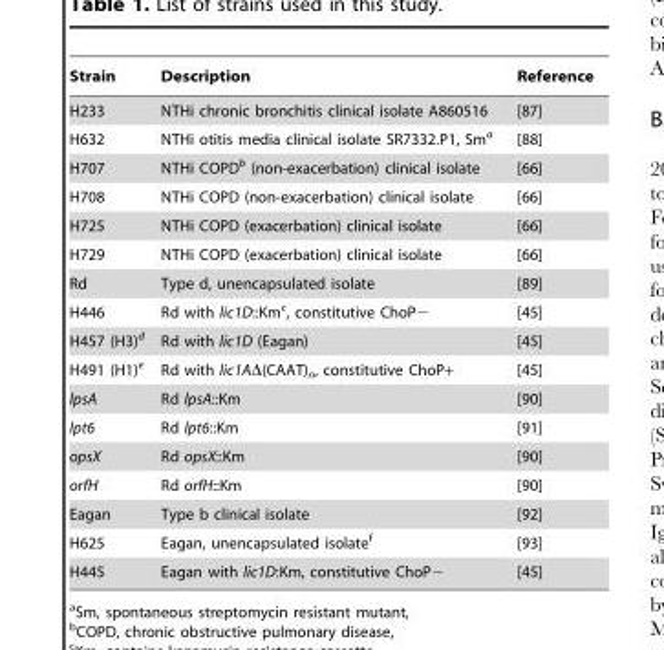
<table><thead><tr><td>Strain</td><td>Description</td><td>Reference</td></tr></thead><tbody><tr><td>H233</td><td>NTHi chronic bronchitis clinical isolate A860516</td><td>[87]</td></tr><tr><td>H632</td><td>NTHi otitis media clinical isolate SR7332.P1, Sm<sup>a</sup></td><td>[88]</td></tr><tr><td>H707</td><td>NTHi COPD<sup>b</sup> (non-exacerbation) clinical isolate</td><td>[66]</td></tr><tr><td>H708</td><td>NTHi COPD (non-exacerbation) clinical isolate</td><td>[66]</td></tr><tr><td>H725</td><td>NTHi COPD (exacerbation) clinical isolate</td><td>[66]</td></tr><tr><td>H729</td><td>NTHi COPD (exacerbation) clinical isolate</td><td>[66]</td></tr><tr><td>Rd</td><td>Type d, unencapsulated isolate</td><td>[89]</td></tr><tr><td>H446</td><td>Rd with lic1D::Km<sup>c</sup>, constitutive ChoP−</td><td>[45]</td></tr><tr><td>H457 (H3)<sup>d</sup></td><td>Rd with lic1D (Eagan)</td><td>[45]</td></tr><tr><td>H491 (H1)<sup>e</sup></td><td>Rd with lic1AΔ(CAAT)<sub>n</sub>, constitutive ChoP+</td><td>[45]</td></tr><tr><td>lpsA</td><td>Rd lpsA::Km</td><td>[90]</td></tr><tr><td>lpt6</td><td>Rd lpt6::Km</td><td>[91]</td></tr><tr><td>opsX</td><td>Rd opsX::Km</td><td>[90]</td></tr><tr><td>orfH</td><td>Rd orfH::Km</td><td>[90]</td></tr><tr><td>Eagan</td><td>Type b clinical isolate</td><td>[92]</td></tr><tr><td>H625</td><td>Eagan, unencapsulated isolate<sup>f</sup></td><td>[93]</td></tr><tr><td>H445</td><td>Eagan with lic1D:Km, constitutive ChoP−</td><td>[45]</td></tr></tbody></table>